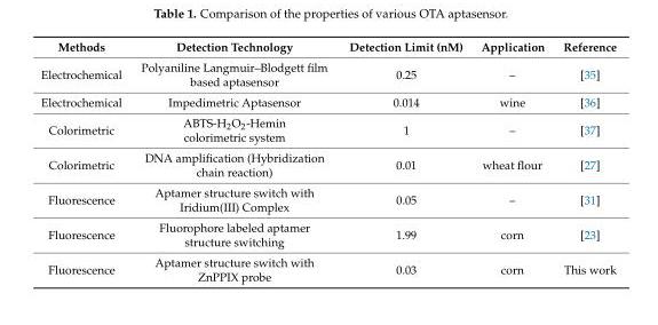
<table><thead><tr><td>Methods</td><td>Detection Technology</td><td>Detection Limit (nM)</td><td>Application</td><td>Reference</td></tr></thead><tbody><tr><td>Electrochemical</td><td>Polyaniline Langmuir–Blodgett film based aptasensor</td><td>0.25</td><td>–</td><td>[35]</td></tr><tr><td>Electrochemical</td><td>Impedimetric Aptasensor</td><td>0.014</td><td>wine</td><td>[36]</td></tr><tr><td>Colorimetric</td><td>ABTS-H2O2-Hemin colorimetric system</td><td>1</td><td>–</td><td>[37]</td></tr><tr><td>Colorimetric</td><td>DNA amplification (Hybridization chain reaction)</td><td>0.01</td><td>wheat flour</td><td>[27]</td></tr><tr><td>Fluorescence</td><td>Aptamer structure switch with Iridium(III) Complex</td><td>0.05</td><td>–</td><td>[31]</td></tr><tr><td>Fluorescence</td><td>Fluorophore labeled aptamer structure switching</td><td>1.99</td><td>corn</td><td>[23]</td></tr><tr><td>Fluorescence</td><td>Aptamer structure switch with ZnPPIX probe</td><td>0.03</td><td>corn</td><td>This work</td></tr></tbody></table>